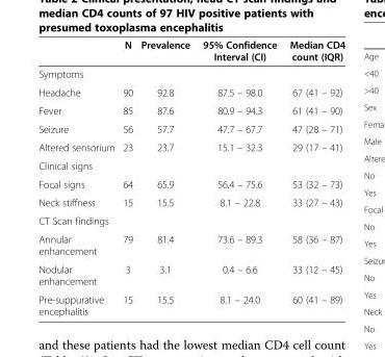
<table><thead><tr><td></td><td>N</td><td>Prevalence</td><td>95% Confidence Interval (CI)</td><td>Median CD4 count (IQR)</td></tr></thead><tbody><tr><td colspan="5">Symptoms</td></tr><tr><td>Headache</td><td>90</td><td>92.8</td><td>87.5 – 98.0</td><td>67 (41 – 92)</td></tr><tr><td>Fever</td><td>85</td><td>87.6</td><td>80.9 – 94.3</td><td>61 (41 – 90)</td></tr><tr><td>Seizure</td><td>56</td><td>57.7</td><td>47.7 – 67.7</td><td>47 (28 – 71)</td></tr><tr><td>Altered sensorium</td><td>23</td><td>23.7</td><td>15.1 – 32.3</td><td>29 (17 – 41)</td></tr><tr><td colspan="5">Clinical signs</td></tr><tr><td>Focal signs</td><td>64</td><td>65.9</td><td>56.4 – 75.6</td><td>53 (32 – 73)</td></tr><tr><td>Neck stiffness</td><td>15</td><td>15.5</td><td>8.1 – 22.8</td><td>33 (27 – 43)</td></tr><tr><td colspan="5">CT Scan findings</td></tr><tr><td>Annular enhancement</td><td>79</td><td>81.4</td><td>73.6 – 89.3</td><td>58 (36 – 87)</td></tr><tr><td>Nodular enhancement</td><td>3</td><td>3.1</td><td>0.4 – 6.6</td><td>33 (12 – 45)</td></tr><tr><td>Pre-suppurative encephalitis</td><td>15</td><td>15.5</td><td>8.1 – 24.0</td><td>60 (41 – 89)</td></tr></tbody></table>